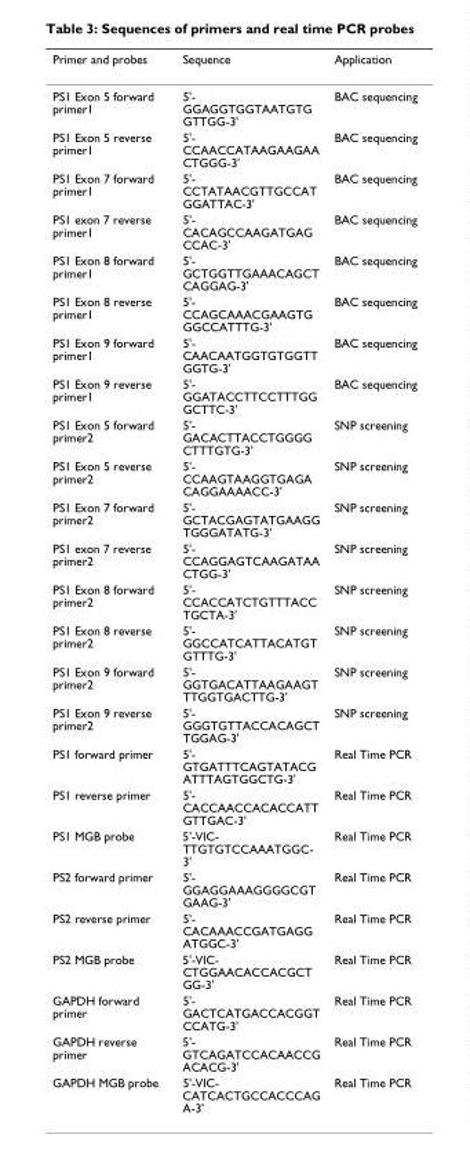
<table><thead><tr><td>Primer and probes</td><td>Sequence</td><td>Application</td></tr></thead><tbody><tr><td>PS1 Exon 5 forward primer1</td><td>5&#x27;- GGAGGTGGTAATGTG GTTGG-3&#x27;</td><td>BAC sequencing</td></tr><tr><td>PS1 Exon 5 reverse primer1</td><td>5&#x27;- CCAACCATAAGAAGAA CTGGG-3&#x27;</td><td>BAC sequencing</td></tr><tr><td>PS1 Exon 7 forward primer1</td><td>5&#x27;- CCTATAACGTTGCCAT GGATTAC-3&#x27;</td><td>BAC sequencing</td></tr><tr><td>PS1 exon 7 reverse primer1</td><td>5&#x27;- CACAGCCAAGATGAG CCAC-3&#x27;</td><td>BAC sequencing</td></tr><tr><td>PS1 Exon 8 forward primer1</td><td>5&#x27;- GCTGGTTGAAACAGCT CAGGAG-3&#x27;</td><td>BAC sequencing</td></tr><tr><td>PS1 Exon 8 reverse primer1</td><td>5&#x27;- CCAGCAAACGAAGTG GGCCATTTG-3&#x27;</td><td>BAC sequencing</td></tr><tr><td>PS1 Exon 9 forward primer1</td><td>5&#x27;- CAACAATGGTGTGGTT GGTG-3&#x27;</td><td>BAC sequencing</td></tr><tr><td>PS1 Exon 9 reverse primer1</td><td>5&#x27;- GGATACCTTCCTTTGG GCTTC-3&#x27;</td><td>BAC sequencing</td></tr><tr><td>PS1 Exon 5 forward primer2</td><td>5&#x27;- GACACTTACCTGGGG CTTTGTG-3&#x27;</td><td>SNP screening</td></tr><tr><td>PS1 Exon 5 reverse primer2</td><td>5&#x27;- CCAAGTAAGGTGAGA CAGGAAAACC-3&#x27;</td><td>SNP screening</td></tr><tr><td>PS1 Exon 7 forward primer2</td><td>5&#x27;- GCTACGAGTATGAAGG TGGGATATG-3&#x27;</td><td>SNP screening</td></tr><tr><td>PS1 exon 7 reverse primer2</td><td>5&#x27;- CCAGGAGTCAAGATAA CTGG-3&#x27;</td><td>SNP screening</td></tr><tr><td>PS1 Exon 8 forward primer2</td><td>5&#x27;- CCACCATCTGTTTACC TGCTA-3&#x27;</td><td>SNP screening</td></tr><tr><td>PS1 Exon 8 reverse primer2</td><td>5&#x27;- GGCCATCATTACATGT GTTTG-3&#x27;</td><td>SNP screening</td></tr><tr><td>PS1 Exon 9 forward primer2</td><td>5&#x27;- GGTGACATTAAGAAGT TTGGTGACTTG-3&#x27;</td><td>SNP screening</td></tr><tr><td>PS1 Exon 9 reverse primer2</td><td>5&#x27;- GGGTGTTACCACAGCT TGGAG-3&#x27;</td><td>SNP screening</td></tr><tr><td>PS1 forward primer</td><td>5&#x27;- GTGATTTCAGTATACG ATTTAGTGGCTG-3&#x27;</td><td>Real Time PCR</td></tr><tr><td>PS1 reverse primer</td><td>5&#x27;- CACCAACCACACCATT GTTGAC-3&#x27;</td><td>Real Time PCR</td></tr><tr><td>PS1 MGB probe</td><td>5&#x27;-VIC- TTGTGTCCAAATGGC- 3&#x27;</td><td>Real Time PCR</td></tr><tr><td>PS2 forward primer</td><td>5&#x27;- GGAGGAAAGGGGCGT GAAG-3&#x27;</td><td>Real Time PCR</td></tr><tr><td>PS2 reverse primer</td><td>5&#x27;- CACAAACCGATGAGG ATGGC-3&#x27;</td><td>Real Time PCR</td></tr><tr><td>PS2 MGB probe</td><td>5&#x27;-VIC- CTGGAACACCACGCT GG-3&#x27;</td><td>Real Time PCR</td></tr><tr><td>GAPDH forward primer</td><td>5&#x27;- GACTCATGACCACGGT CCATG-3&#x27;</td><td>Real Time PCR</td></tr><tr><td>GAPDH reverse primer</td><td>5&#x27;- GTCAGATCCACAACCG ACACG-3&#x27;</td><td>Real Time PCR</td></tr><tr><td>GAPDH MGB probe</td><td>5&#x27;-VIC- CATCACTGCCACCCAG A-3&#x27;</td><td>Real Time PCR</td></tr></tbody></table>